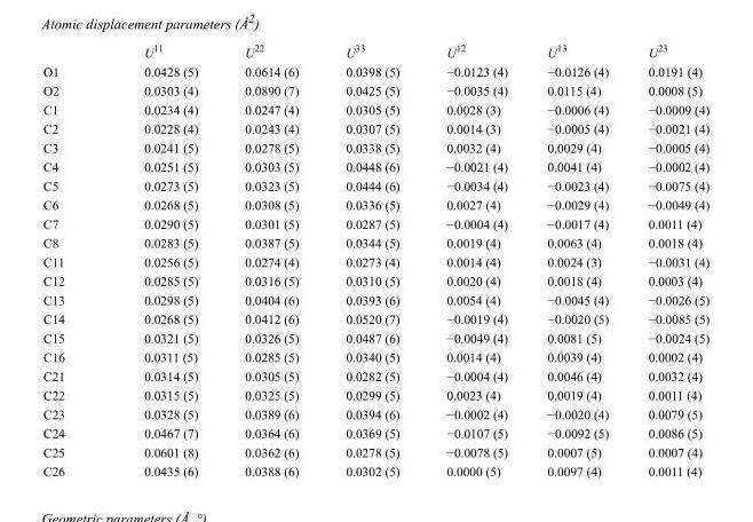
<table><thead><tr><td></td><td>U<sup>11</sup></td><td>U<sup>22</sup></td><td>U<sup>33</sup></td><td>U<sup>12</sup></td><td>U<sup>13</sup></td><td>U<sup>23</sup></td></tr></thead><tbody><tr><td>O1</td><td>0.0428 (5)</td><td>0.0614 (6)</td><td>0.0398 (5)</td><td>−0.0123 (4)</td><td>−0.0126 (4)</td><td>0.0191 (4)</td></tr><tr><td>O2</td><td>0.0303 (4)</td><td>0.0890 (7)</td><td>0.0425 (5)</td><td>−0.0035 (4)</td><td>0.0115 (4)</td><td>0.0008 (5)</td></tr><tr><td>C1</td><td>0.0234 (4)</td><td>0.0247 (4)</td><td>0.0305 (5)</td><td>0.0028 (3)</td><td>−0.0006 (4)</td><td>−0.0009 (4)</td></tr><tr><td>C2</td><td>0.0228 (4)</td><td>0.0243 (4)</td><td>0.0307 (5)</td><td>0.0014 (3)</td><td>−0.0005 (4)</td><td>−0.0021 (4)</td></tr><tr><td>C3</td><td>0.0241 (5)</td><td>0.0278 (5)</td><td>0.0338 (5)</td><td>0.0032 (4)</td><td>0.0029 (4)</td><td>−0.0005 (4)</td></tr><tr><td>C4</td><td>0.0251 (5)</td><td>0.0303 (5)</td><td>0.0448 (6)</td><td>−0.0021 (4)</td><td>0.0041 (4)</td><td>−0.0002 (4)</td></tr><tr><td>C5</td><td>0.0273 (5)</td><td>0.0323 (5)</td><td>0.0444 (6)</td><td>−0.0034 (4)</td><td>−0.0023 (4)</td><td>−0.0075 (4)</td></tr><tr><td>C6</td><td>0.0268 (5)</td><td>0.0308 (5)</td><td>0.0336 (5)</td><td>0.0027 (4)</td><td>−0.0029 (4)</td><td>−0.0049 (4)</td></tr><tr><td>C7</td><td>0.0290 (5)</td><td>0.0301 (5)</td><td>0.0287 (5)</td><td>−0.0004 (4)</td><td>−0.0017 (4)</td><td>0.0011 (4)</td></tr><tr><td>C8</td><td>0.0283 (5)</td><td>0.0387 (5)</td><td>0.0344 (5)</td><td>0.0019 (4)</td><td>0.0063 (4)</td><td>0.0018 (4)</td></tr><tr><td>C11</td><td>0.0256 (5)</td><td>0.0274 (4)</td><td>0.0273 (4)</td><td>0.0014 (4)</td><td>0.0024 (3)</td><td>−0.0031 (4)</td></tr><tr><td>C12</td><td>0.0285 (5)</td><td>0.0316 (5)</td><td>0.0310 (5)</td><td>0.0020 (4)</td><td>0.0018 (4)</td><td>0.0003 (4)</td></tr><tr><td>C13</td><td>0.0298 (5)</td><td>0.0404 (6)</td><td>0.0393 (6)</td><td>0.0054 (4)</td><td>−0.0045 (4)</td><td>−0.0026 (5)</td></tr><tr><td>C14</td><td>0.0268 (5)</td><td>0.0412 (6)</td><td>0.0520 (7)</td><td>−0.0019 (4)</td><td>−0.0020 (5)</td><td>−0.0085 (5)</td></tr><tr><td>C15</td><td>0.0321 (5)</td><td>0.0326 (5)</td><td>0.0487 (6)</td><td>−0.0049 (4)</td><td>0.0081 (5)</td><td>−0.0024 (5)</td></tr><tr><td>C16</td><td>0.0311 (5)</td><td>0.0285 (5)</td><td>0.0340 (5)</td><td>0.0014 (4)</td><td>0.0039 (4)</td><td>0.0002 (4)</td></tr><tr><td>C21</td><td>0.0314 (5)</td><td>0.0305 (5)</td><td>0.0282 (5)</td><td>−0.0004 (4)</td><td>0.0046 (4)</td><td>0.0032 (4)</td></tr><tr><td>C22</td><td>0.0315 (5)</td><td>0.0325 (5)</td><td>0.0299 (5)</td><td>0.0023 (4)</td><td>0.0019 (4)</td><td>0.0011 (4)</td></tr><tr><td>C23</td><td>0.0328 (5)</td><td>0.0389 (6)</td><td>0.0394 (6)</td><td>−0.0002 (4)</td><td>−0.0020 (4)</td><td>0.0079 (5)</td></tr><tr><td>C24</td><td>0.0467 (7)</td><td>0.0364 (6)</td><td>0.0369 (5)</td><td>−0.0107 (5)</td><td>−0.0092 (5)</td><td>0.0086 (5)</td></tr><tr><td>C25</td><td>0.0601 (8)</td><td>0.0362 (6)</td><td>0.0278 (5)</td><td>−0.0078 (5)</td><td>0.0007 (5)</td><td>0.0007 (4)</td></tr><tr><td>C26</td><td>0.0435 (6)</td><td>0.0388 (6)</td><td>0.0302 (5)</td><td>0.0000 (5)</td><td>0.0097 (4)</td><td>0.0011 (4)</td></tr></tbody></table>